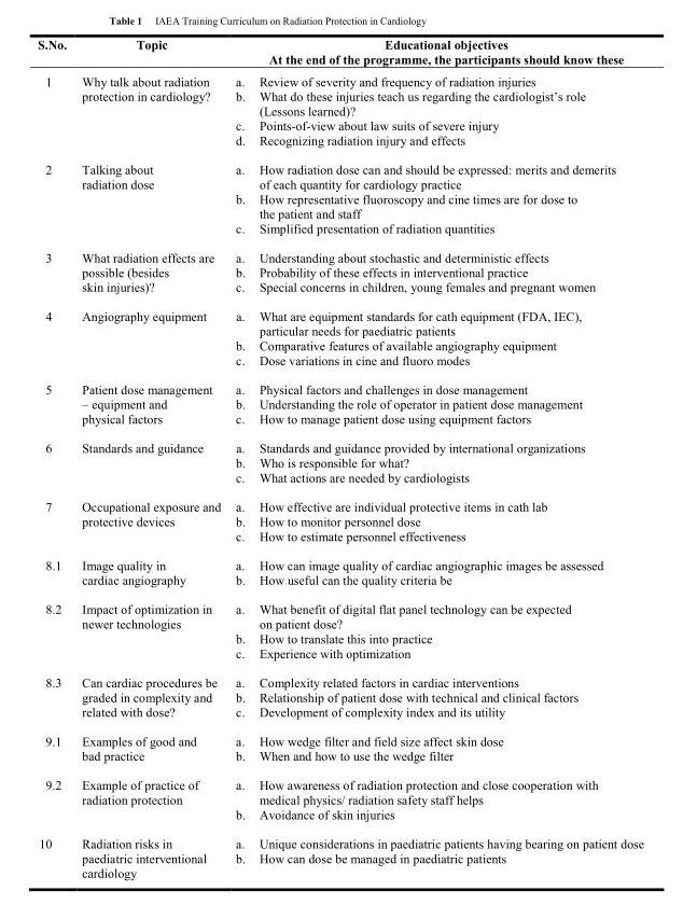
<table><thead><tr><td>S.No.</td><td>Topic</td><td>Educational objectives At the end of the programme, the participants should know these</td></tr></thead><tbody><tr><td>1</td><td>Why talk about radiation protection in cardiology?</td><td>a. Review of severity and frequency of radiation injuries b. What do these injuries teach us regarding the cardiologist’s role (Lessons learned)? c. Points-of-view about law suits of severe injury d. Recognizing radiation injury and effects</td></tr><tr><td>2</td><td>Talking about radiation dose</td><td>a. How radiation dose can and should be expressed: merits and demerits of each quantity for cardiology practice b. How representative fluoroscopy and cine times are for dose to the patient and staff c. Simplified presentation of radiation quantities</td></tr><tr><td>3</td><td>What radiation effects are possible (besides skin injuries)?</td><td>a. Understanding about stochastic and deterministic effects b. Probability of these effects in interventional practice c. Special concerns in children, young females and pregnant women</td></tr><tr><td>4</td><td>Angiography equipment</td><td>a. What are equipment standards for cath equipment (FDA, IEC), particular needs for paediatric patients b. Comparative features of available angiography equipment c. Dose variations in cine and fluoro modes</td></tr><tr><td>5</td><td>Patient dose management – equipment and physical factors</td><td>a. Physical factors and challenges in dose management b. Understanding the role of operator in patient dose management c. How to manage patient dose using equipment factors</td></tr><tr><td>6</td><td>Standards and guidance</td><td>a. Standards and guidance provided by international organizations b. Who is responsible for what? c. What actions are needed by cardiologists</td></tr><tr><td>7</td><td>Occupational exposure and protective devices</td><td>a. How effective are individual protective items in cath lab b. How to monitor personnel dose c. How to estimate personnel effectiveness</td></tr><tr><td>8.1</td><td>Image quality in cardiac angiography</td><td>a. How can image quality of cardiac angiographic images be assessed b. How useful can the quality criteria be</td></tr><tr><td>8.2</td><td>Impact of optimization in newer technologies</td><td>a. What benefit of digital flat panel technology can be expected on patient dose? b. How to translate this into practice c. Experience with optimization</td></tr><tr><td>8.3</td><td>Can cardiac procedures be graded in complexity and related with dose?</td><td>a. Complexity related factors in cardiac interventions b. Relationship of patient dose with technical and clinical factors c. Development of complexity index and its utility</td></tr><tr><td>9.1</td><td>Examples of good and bad practice</td><td>a. How wedge filter and field size affect skin dose b. When and how to use the wedge filter</td></tr><tr><td>9.2</td><td>Example of practice of radiation protection</td><td>a. How awareness of radiation protection and close cooperation with medical physics/ radiation safety staff helps b. Avoidance of skin injuries</td></tr><tr><td>10</td><td>Radiation risks in paediatric interventional cardiology</td><td>a. Unique considerations in paediatric patients having bearing on patient dose b. How can dose be managed in paediatric patients</td></tr></tbody></table>